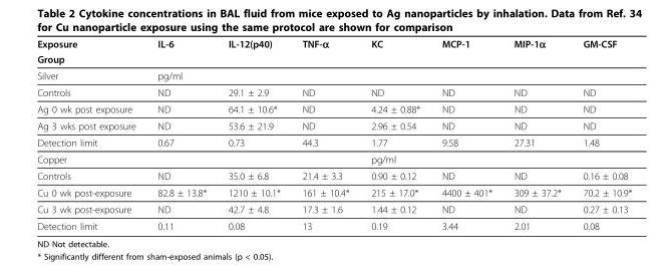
<table><thead><tr><td>Exposure</td><td>IL-6</td><td>IL-12(p40)</td><td>TNF-α</td><td>KC</td><td>MCP-1</td><td>MIP-1α</td><td>GM-CSF</td></tr><tr><td colspan="8">Group</td></tr></thead><tbody><tr><td>Silver</td><td colspan="7">pg/ml</td></tr><tr><td>Controls</td><td>ND</td><td>29.1 ± 2.9</td><td>ND</td><td>ND</td><td>ND</td><td>ND</td><td>ND</td></tr><tr><td>Ag 0 wk post exposure</td><td>ND</td><td>64.1 ± 10.6*</td><td>ND</td><td>4.24 ± 0.88*</td><td>ND</td><td>ND</td><td>ND</td></tr><tr><td>Ag 3 wks post exposure</td><td>ND</td><td>53.6 ± 21.9</td><td>ND</td><td>2.96 ± 0.54</td><td>ND</td><td>ND</td><td>ND</td></tr><tr><td>Detection limit</td><td>0.67</td><td>0.73</td><td>44.3</td><td>1.77</td><td>9.58</td><td>27.31</td><td>1.48</td></tr><tr><td>Copper</td><td></td><td></td><td></td><td>pg/ml</td><td></td><td></td><td></td></tr><tr><td>Controls</td><td>ND</td><td>35.0 ± 6.8</td><td>21.4 ± 3.3</td><td>0.90 ± 0.12</td><td>ND</td><td>ND</td><td>0.16 ± 0.08</td></tr><tr><td>Cu 0 wk post-exposure</td><td>82.8 ± 13.8*</td><td>1210 ± 10.1*</td><td>161 ± 10.4*</td><td>215 ± 17.0*</td><td>4400 ± 401*</td><td>309 ± 37.2*</td><td>70.2 ± 10.9*</td></tr><tr><td>Cu 3 wk post-exposure</td><td>ND</td><td>42.7 ± 4.8</td><td>17.3 ± 1.6</td><td>1.44 ± 0.12</td><td>ND</td><td>ND</td><td>0.27 ± 0.13</td></tr><tr><td>Detection limit</td><td>0.11</td><td>0.08</td><td>13</td><td>0.19</td><td>3.44</td><td>2.01</td><td>0.08</td></tr></tbody></table>